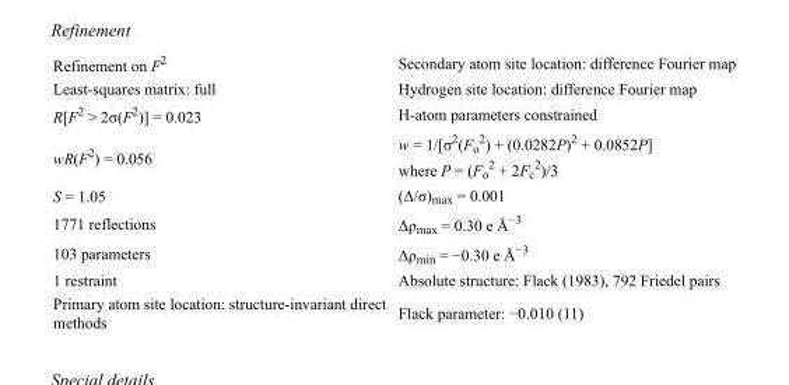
<table><tbody><tr><td>Refinement on F<sup>2</sup></td><td>Secondary atom site location: difference Fourier map</td></tr><tr><td>Least-squares matrix: full</td><td>Hydrogen site location: difference Fourier map</td></tr><tr><td>R[F<sup>2</sup> &gt; 2σ(F<sup>2</sup>)] = 0.023</td><td>H-atom parameters constrained</td></tr><tr><td>wR(F<sup>2</sup>) = 0.056</td><td>w = 1/[σ<sup>2</sup>(F<sub>o</sub> <sup>2</sup>) + (0.0282P)<sup>2</sup> + 0.0852P] where P = (F<sub>o</sub> <sup>2</sup> + 2F<sub>c</sub> <sup>2</sup>)/3</td></tr><tr><td>S = 1.05</td><td>(Δ/σ)<sub>max</sub> = 0.001</td></tr><tr><td>1771 reflections</td><td>Δρ<sub>max</sub> = 0.30 e Å<sup>−3</sup></td></tr><tr><td>103 parameters</td><td>Δρ<sub>min</sub> = −0.30 e Å<sup>−3</sup></td></tr><tr><td>1 restraint</td><td>Absolute structure: Flack (1983), 792 Friedel pairs</td></tr><tr><td>Primary atom site location: structure-invariant direct methods</td><td>Flack parameter: −0.010 (11)</td></tr></tbody></table>